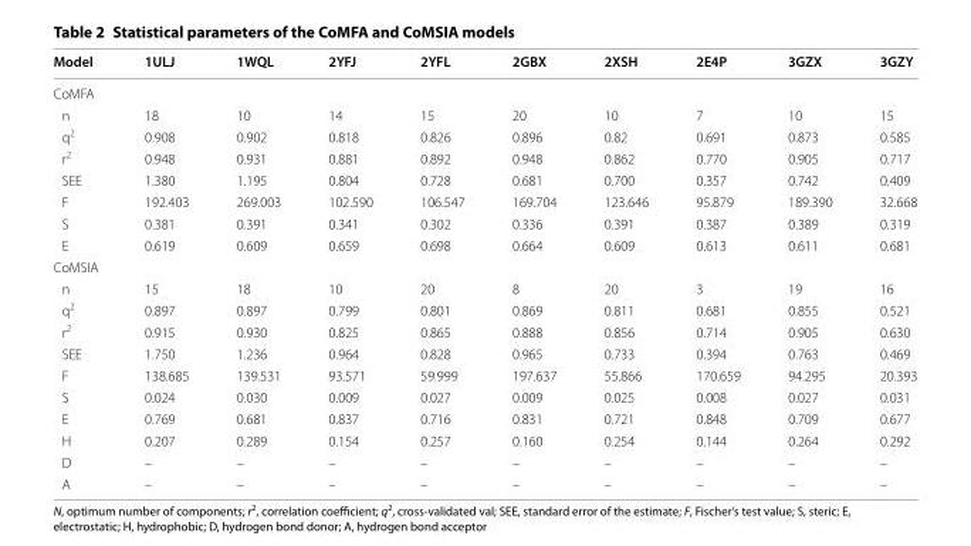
<table><thead><tr><td>Model</td><td>1ULJ</td><td>1WQL</td><td>2YFJ</td><td>2YFL</td><td>2GBX</td><td>2XSH</td><td>2E4P</td><td>3GZX</td><td>3GZY</td></tr></thead><tbody><tr><td colspan="10">CoMFA</td></tr><tr><td>n</td><td>18</td><td>10</td><td>14</td><td>15</td><td>20</td><td>10</td><td>7</td><td>10</td><td>15</td></tr><tr><td>q<sup>2</sup></td><td>0.908</td><td>0.902</td><td>0.818</td><td>0.826</td><td>0.896</td><td>0.82</td><td>0.691</td><td>0.873</td><td>0.585</td></tr><tr><td>r<sup>2</sup></td><td>0.948</td><td>0.931</td><td>0.881</td><td>0.892</td><td>0.948</td><td>0.862</td><td>0.770</td><td>0.905</td><td>0.717</td></tr><tr><td>SEE</td><td>1.380</td><td>1.195</td><td>0.804</td><td>0.728</td><td>0.681</td><td>0.700</td><td>0.357</td><td>0.742</td><td>0.409</td></tr><tr><td>F</td><td>192.403</td><td>269.003</td><td>102.590</td><td>106.547</td><td>169.704</td><td>123.646</td><td>95.879</td><td>189.390</td><td>32.668</td></tr><tr><td>S</td><td>0.381</td><td>0.391</td><td>0.341</td><td>0.302</td><td>0.336</td><td>0.391</td><td>0.387</td><td>0.389</td><td>0.319</td></tr><tr><td>E</td><td>0.619</td><td>0.609</td><td>0.659</td><td>0.698</td><td>0.664</td><td>0.609</td><td>0.613</td><td>0.611</td><td>0.681</td></tr><tr><td colspan="10">CoMSIA</td></tr><tr><td>n</td><td>15</td><td>18</td><td>10</td><td>20</td><td>8</td><td>20</td><td>3</td><td>19</td><td>16</td></tr><tr><td>q<sup>2</sup></td><td>0.897</td><td>0.897</td><td>0.799</td><td>0.801</td><td>0.869</td><td>0.811</td><td>0.681</td><td>0.855</td><td>0.521</td></tr><tr><td>r<sup>2</sup></td><td>0.915</td><td>0.930</td><td>0.825</td><td>0.865</td><td>0.888</td><td>0.856</td><td>0.714</td><td>0.905</td><td>0.630</td></tr><tr><td>SEE</td><td>1.750</td><td>1.236</td><td>0.964</td><td>0.828</td><td>0.965</td><td>0.733</td><td>0.394</td><td>0.763</td><td>0.469</td></tr><tr><td>F</td><td>138.685</td><td>139.531</td><td>93.571</td><td>59.999</td><td>197.637</td><td>55.866</td><td>170.659</td><td>94.295</td><td>20.393</td></tr><tr><td>S</td><td>0.024</td><td>0.030</td><td>0.009</td><td>0.027</td><td>0.009</td><td>0.025</td><td>0.008</td><td>0.027</td><td>0.031</td></tr><tr><td>E</td><td>0.769</td><td>0.681</td><td>0.837</td><td>0.716</td><td>0.831</td><td>0.721</td><td>0.848</td><td>0.709</td><td>0.677</td></tr><tr><td>H</td><td>0.207</td><td>0.289</td><td>0.154</td><td>0.257</td><td>0.160</td><td>0.254</td><td>0.144</td><td>0.264</td><td>0.292</td></tr><tr><td>D</td><td>–</td><td>–</td><td>–</td><td>–</td><td>–</td><td>–</td><td>–</td><td>–</td><td>–</td></tr><tr><td>A</td><td>–</td><td>–</td><td>–</td><td>–</td><td>–</td><td>–</td><td>–</td><td>–</td><td>–</td></tr></tbody></table>